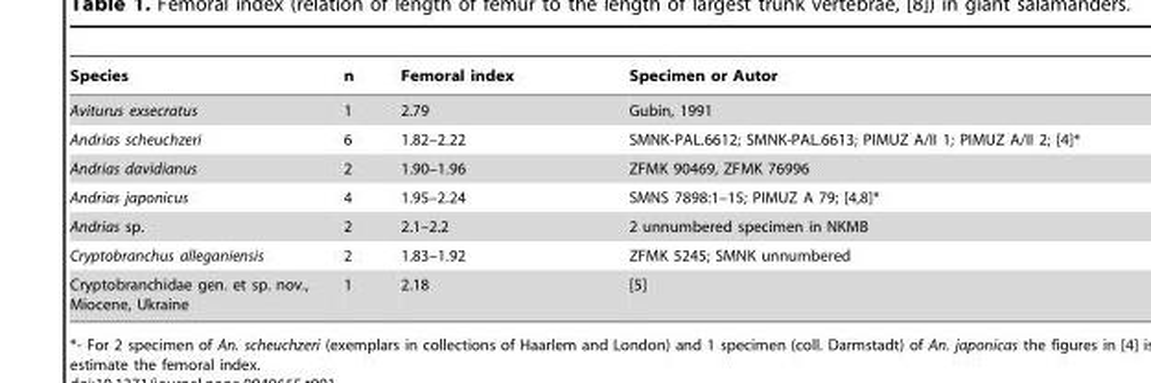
<table><thead><tr><td>Species</td><td>n</td><td>Femoral index</td><td>Specimen or Autor</td></tr></thead><tbody><tr><td>Aviturus exsecratus</td><td>1</td><td>2.79</td><td>Gubin, 1991</td></tr><tr><td>Andrias scheuchzeri</td><td>6</td><td>1.82–2.22</td><td>SMNK-PAL.6612; SMNK-PAL.6613; PIMUZ A/II 1; PIMUZ A/II 2; [4]*</td></tr><tr><td>Andrias davidianus</td><td>2</td><td>1.90–1.96</td><td>ZFMK 90469, ZFMK 76996</td></tr><tr><td>Andrias japonicus</td><td>4</td><td>1.95–2.24</td><td>SMNS 7898:1–15; PIMUZ A 79; [4,8]*</td></tr><tr><td>Andrias sp.</td><td>2</td><td>2.1–2.2</td><td>2 unnumbered specimen in NKMB</td></tr><tr><td>Cryptobranchus alleganiensis</td><td>2</td><td>1.83–1.92</td><td>ZFMK 5245; SMNK unnumbered</td></tr><tr><td>Cryptobranchidae gen. et sp. nov., Miocene, Ukraine</td><td>1</td><td>2.18</td><td>[5]</td></tr></tbody></table>